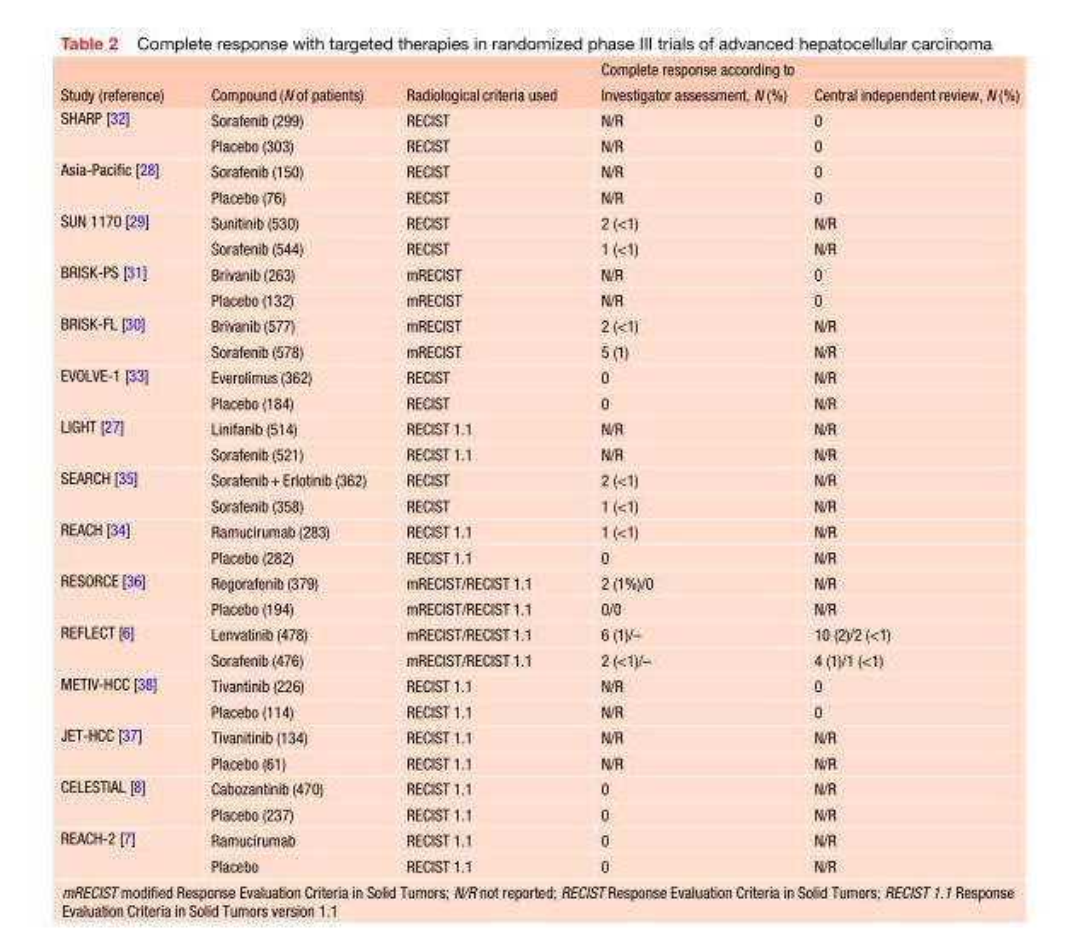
<table><thead><tr><td rowspan="2">Study (reference)</td><td rowspan="2">Compound (N of patients)</td><td rowspan="2">Radiological criteria used</td><td colspan="2">Complete response according to</td></tr><tr><td>Investigator assessment, N (%)</td><td>Central independent review, N (%)</td></tr></thead><tbody><tr><td rowspan="2">SHARP [32]</td><td>Sorafenib (299)</td><td>RECIST</td><td>N/R</td><td>0</td></tr><tr><td>Placebo (303)</td><td>RECIST</td><td>N/R</td><td>0</td></tr><tr><td rowspan="2">Asia-Pacific [28]</td><td>Sorafenib (150)</td><td>RECIST</td><td>N/R</td><td>0</td></tr><tr><td>Placebo (76)</td><td>RECIST</td><td>N/R</td><td>0</td></tr><tr><td rowspan="2">SUN 1170 [29]</td><td>Sunitinib (530)</td><td>RECIST</td><td>2 (&lt;1)</td><td>N/R</td></tr><tr><td>Sorafenib (544)</td><td>RECIST</td><td>1 (&lt;1)</td><td>N/R</td></tr><tr><td rowspan="2">BRISK-PS [31]</td><td>Brivanib (263)</td><td>mRECIST</td><td>N/R</td><td>0</td></tr><tr><td>Placebo (132)</td><td>mRECIST</td><td>N/R</td><td>0</td></tr><tr><td rowspan="2">BRISK-FL [30]</td><td>Brivanib (577)</td><td>mRECIST</td><td>2 (&lt;1)</td><td>N/R</td></tr><tr><td>Sorafenib (578)</td><td>mRECIST</td><td>5 (1)</td><td>N/R</td></tr><tr><td rowspan="2">EVOLVE-1 [33]</td><td>Everolimus (362)</td><td>RECIST</td><td>0</td><td>N/R</td></tr><tr><td>Placebo (184)</td><td>RECIST</td><td>0</td><td>N/R</td></tr><tr><td rowspan="2">LIGHT [27]</td><td>Linifanib (514)</td><td>RECIST 1.1</td><td>N/R</td><td>N/R</td></tr><tr><td>Sorafenib (521)</td><td>RECIST 1.1</td><td>N/R</td><td>N/R</td></tr><tr><td rowspan="2">SEARCH [35]</td><td>Sorafenib+Erlotinib (362)</td><td>RECIST</td><td>2 (&lt;1)</td><td>N/R</td></tr><tr><td>Sorafenib (358)</td><td>RECIST</td><td>1 (&lt;1)</td><td>N/R</td></tr><tr><td rowspan="2">REACH [34]</td><td>Ramucirumab (283)</td><td>RECIST 1.1</td><td>1 (&lt;1)</td><td>N/R</td></tr><tr><td>Placebo (282)</td><td>RECIST 1.1</td><td>0</td><td>N/R</td></tr><tr><td rowspan="2">RESORCE [36]</td><td>Regorafenib (379)</td><td>mRECIST/RECIST 1.1</td><td>2 (1%)/0</td><td>N/R</td></tr><tr><td>Placebo (194)</td><td>mRECIST/RECIST 1.1</td><td>0/0</td><td>N/R</td></tr><tr><td rowspan="2">REFLECT [6]</td><td>Lenvatinib (478)</td><td>mRECIST/RECIST 1.1</td><td>6 (1)/–</td><td>10 (2)/2 (&lt;1)</td></tr><tr><td>Sorafenib (476)</td><td>mRECIST/RECIST 1.1</td><td>2 (&lt;1)/–</td><td>4 (1)/1 (&lt;1)</td></tr><tr><td rowspan="2">METIV-HCC [38]</td><td>Tivantinib (226)</td><td>RECIST 1.1</td><td>N/R</td><td>0</td></tr><tr><td>Placebo (114)</td><td>RECIST 1.1</td><td>N/R</td><td>0</td></tr><tr><td rowspan="2">JET-HCC [37]</td><td>Tivanitinib (134)</td><td>RECIST 1.1</td><td>N/R</td><td>N/R</td></tr><tr><td>Placebo (61)</td><td>RECIST 1.1</td><td>N/R</td><td>N/R</td></tr><tr><td rowspan="2">CELESTIAL [8]</td><td>Cabozantinib (470)</td><td>RECIST 1.1</td><td>0</td><td>N/R</td></tr><tr><td>Placebo (237)</td><td>RECIST 1.1</td><td>0</td><td>N/R</td></tr><tr><td rowspan="2">REACH-2 [7]</td><td>Ramucirumab</td><td>RECIST 1.1</td><td>0</td><td>N/R</td></tr><tr><td>Placebo</td><td>RECIST 1.1</td><td>0</td><td>N/R</td></tr></tbody></table>